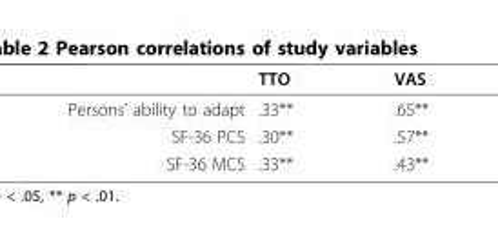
<table><thead><tr><td></td><td>TTO</td><td>VAS</td></tr></thead><tbody><tr><td>Persons’ ability to adapt</td><td>.33**</td><td>.65**</td></tr><tr><td>SF-36 PCS</td><td>.30**</td><td>.57**</td></tr><tr><td>SF-36 MCS</td><td>.33**</td><td>.43**</td></tr></tbody></table>